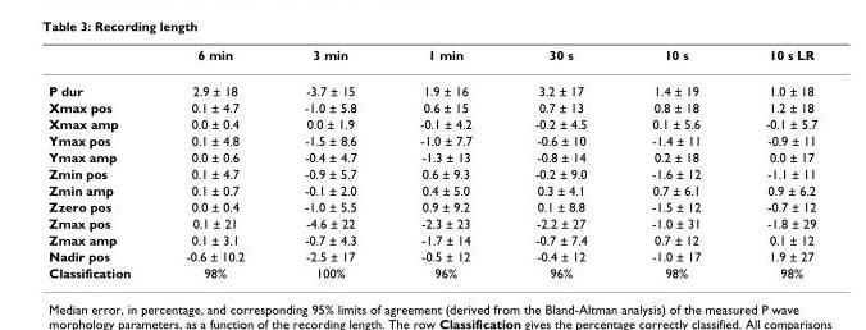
<table><thead><tr><td></td><td>6 min</td><td>3 min</td><td>1 min</td><td>30 s</td><td>10 s</td><td>10 s LR</td></tr></thead><tbody><tr><td>P dur</td><td>2.9 ± 18</td><td>-3.7 ± 15</td><td>1.9 ± 16</td><td>3.2 ± 17</td><td>1.4 ± 19</td><td>1.0 ± 18</td></tr><tr><td>Xmax pos</td><td>0.1 ± 4.7</td><td>-1.0 ± 5.8</td><td>0.6 ± 15</td><td>0.7 ± 13</td><td>0.8 ± 18</td><td>1.2 ± 18</td></tr><tr><td>Xmax amp</td><td>0.0 ± 0.4</td><td>0.0 ± 1.9</td><td>-0.1 ± 4.2</td><td>-0.2 ± 4.5</td><td>0.1 ± 5.6</td><td>-0.1 ± 5.7</td></tr><tr><td>Ymax pos</td><td>0.1 ± 4.8</td><td>-1.5 ± 8.6</td><td>-1.0 ± 7.7</td><td>-0.6 ± 10</td><td>-1.4 ± 11</td><td>-0.9 ± 11</td></tr><tr><td>Ymax amp</td><td>0.0 ± 0.6</td><td>-0.4 ± 4.7</td><td>-1.3 ± 13</td><td>-0.8 ± 14</td><td>0.2 ± 18</td><td>0.0 ± 17</td></tr><tr><td>Zmin pos</td><td>0.1 ± 4.7</td><td>-0.9 ± 5.7</td><td>0.6 ± 9.3</td><td>-0.2 ± 9.0</td><td>-1.6 ± 12</td><td>-1.1 ± 11</td></tr><tr><td>Zmin amp</td><td>0.1 ± 0.7</td><td>-0.1 ± 2.0</td><td>0.4 ± 5.0</td><td>0.3 ± 4.1</td><td>0.7 ± 6.1</td><td>0.9 ± 6.2</td></tr><tr><td>Zzero pos</td><td>0.0 ± 0.4</td><td>-1.0 ± 5.5</td><td>0.9 ± 9.2</td><td>0.1 ± 8.8</td><td>-1.5 ± 12</td><td>-0.7 ± 12</td></tr><tr><td>Zmax pos</td><td>0.1 ± 21</td><td>-4.6 ± 22</td><td>-2.3 ± 23</td><td>-2.2 ± 27</td><td>-1.0 ± 31</td><td>-1.8 ± 29</td></tr><tr><td>Zmax amp</td><td>0.1 ± 3.1</td><td>-0.7 ± 4.3</td><td>-1.7 ± 14</td><td>-0.7 ± 7.4</td><td>0.7 ± 12</td><td>0.1 ± 12</td></tr><tr><td>Nadir pos</td><td>-0.6 ± 10.2</td><td>-2.5 ± 17</td><td>-0.5 ± 12</td><td>-0.4 ± 12</td><td>-1.0 ± 17</td><td>1.9 ± 27</td></tr><tr><td>Classification</td><td>98%</td><td>100%</td><td>96%</td><td>96%</td><td>98%</td><td>98%</td></tr></tbody></table>